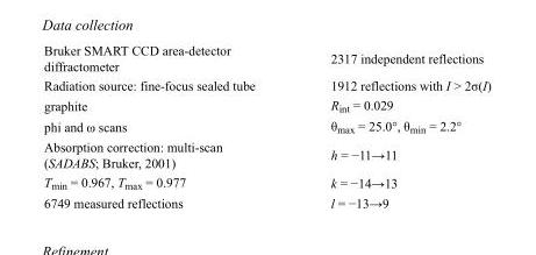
<table><tbody><tr><td>Bruker SMART CCD area-detector diffractometer</td><td>2317 independent reflections</td></tr><tr><td>Radiation source: fine-focus sealed tube</td><td>1912 reflections with I &gt; 2σ(I)</td></tr><tr><td>graphite</td><td>R<sub>int</sub> = 0.029</td></tr><tr><td>phi and ω scans</td><td>θ<sub>max</sub> = 25.0°, θ<sub>min</sub> = 2.2°</td></tr><tr><td>Absorption correction: multi-scan (SADABS; Bruker, 2001)</td><td>h = −11→11</td></tr><tr><td>T<sub>min</sub> = 0.967, T<sub>max</sub> = 0.977</td><td>k = −14→13</td></tr><tr><td>6749 measured reflections</td><td>l = −13→9</td></tr></tbody></table>